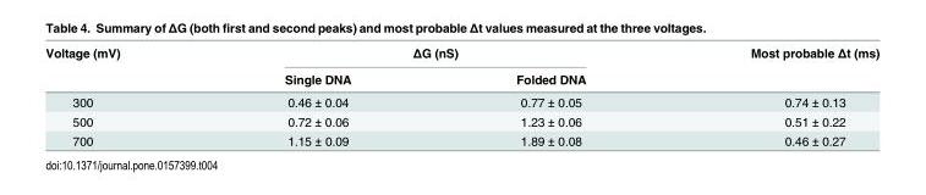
<table><thead><tr><td rowspan="2">Voltage (mV)</td><td colspan="2">ΔG (nS)</td><td rowspan="2">Most probable Δt (ms)</td></tr><tr><td>Single DNA</td><td>Folded DNA</td></tr></thead><tbody><tr><td>300</td><td>0.46 ± 0.04</td><td>0.77 ± 0.05</td><td>0.74 ± 0.13</td></tr><tr><td>500</td><td>0.72 ± 0.06</td><td>1.23 ± 0.06</td><td>0.51 ± 0.22</td></tr><tr><td>700</td><td>1.15 ± 0.09</td><td>1.89 ± 0.08</td><td>0.46 ± 0.27</td></tr></tbody></table>